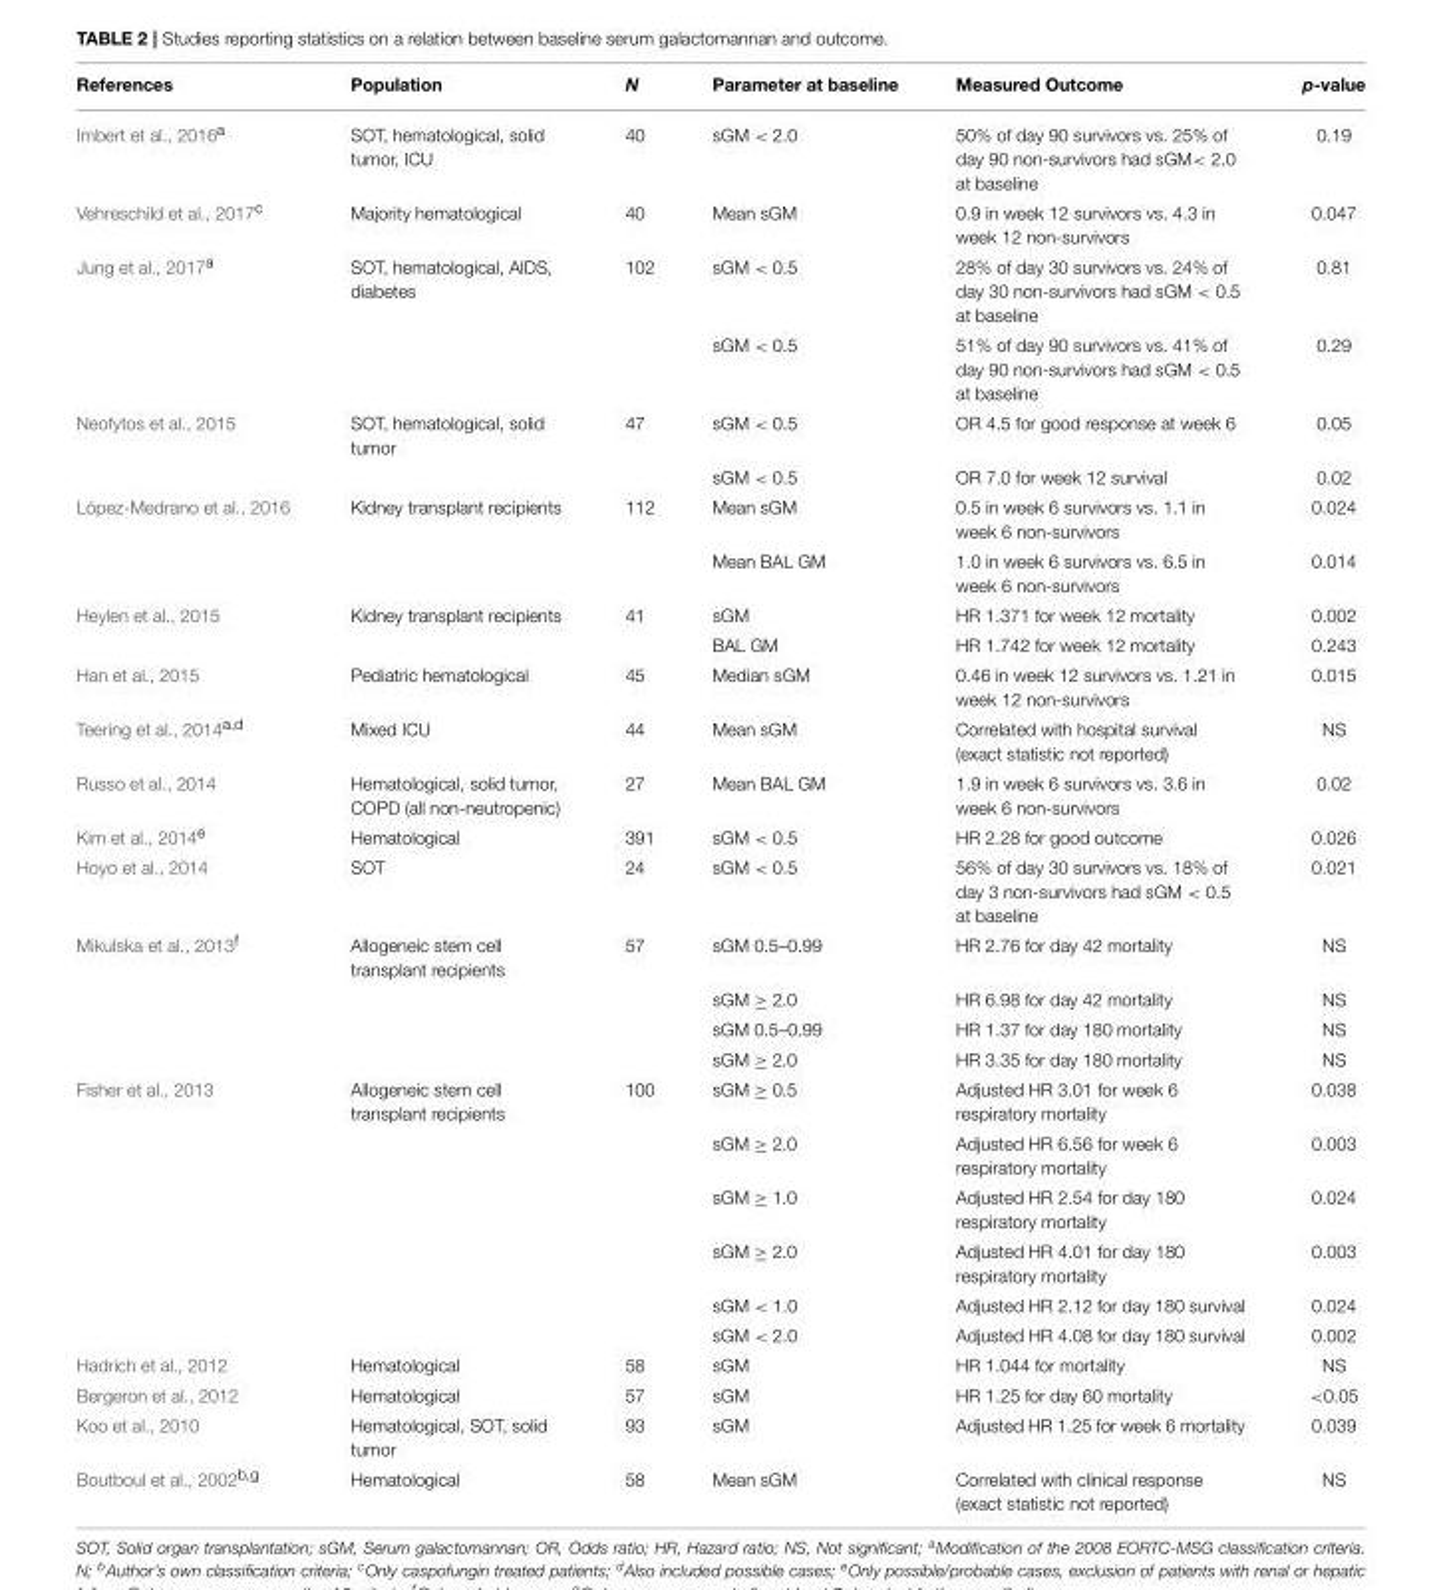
<table><thead><tr><td>References</td><td>Population</td><td>N</td><td>Parameter at baseline</td><td>Measured Outcome</td><td>p-value</td></tr></thead><tbody><tr><td>Imbert et al., 2016<sup>a</sup></td><td>SOT, hematological, solid tumor, ICU</td><td>40</td><td>sGM &lt; 2.0</td><td>50% of day 90 survivors vs. 25% of day 90 non-survivors had sGM&lt; 2.0 at baseline</td><td>0.19</td></tr><tr><td>Vehreschild et al., 2017<sup>c</sup></td><td>Majority hematological</td><td>40</td><td>Mean sGM</td><td>0.9 in week 12 survivors vs. 4.3 in week 12 non-survivors</td><td>0.047</td></tr><tr><td rowspan="2">Jung et al., 2017<sup>a</sup></td><td>SOT, hematological, AIDS, diabetes</td><td>102</td><td>sGM &lt; 0.5</td><td>28% of day 30 survivors vs. 24% of day 30 non-survivors had sGM &lt; 0.5 at baseline</td><td>0.81</td></tr><tr><td></td><td></td><td>sGM &lt; 0.5</td><td>51% of day 90 survivors vs. 41% of day 90 non-survivors had sGM &lt; 0.5 at baseline</td><td>0.29</td></tr><tr><td rowspan="2">Neofytos et al., 2015</td><td>SOT, hematological, solid tumor</td><td>47</td><td>sGM &lt; 0.5</td><td>OR 4.5 for good response at week 6</td><td>0.05</td></tr><tr><td></td><td></td><td>sGM &lt; 0.5</td><td>OR 7.0 for week 12 survival</td><td>0.02</td></tr><tr><td rowspan="2">López-Medrano et al., 2016</td><td>Kidney transplant recipients</td><td>112</td><td>Mean sGM</td><td>0.5 in week 6 survivors vs. 1.1 in week 6 non-survivors</td><td>0.024</td></tr><tr><td></td><td></td><td>Mean BAL GM</td><td>1.0 in week 6 survivors vs. 6.5 in week 6 non-survivors</td><td>0.014</td></tr><tr><td rowspan="2">Heylen et al., 2015</td><td>Kidney transplant recipients</td><td>41</td><td>sGM</td><td>HR 1.371 for week 12 mortality</td><td>0.002</td></tr><tr><td></td><td></td><td>BAL GM</td><td>HR 1.742 for week 12 mortality</td><td>0.243</td></tr><tr><td>Han et al., 2015</td><td>Pediatric hematological</td><td>45</td><td>Median sGM</td><td>0.46 in week 12 survivors vs. 1.21 in week 12 non-survivors</td><td>0.015</td></tr><tr><td>Teering et al., 2014<sup>a,d</sup></td><td>Mixed ICU</td><td>44</td><td>Mean sGM</td><td>Correlated with hospital survival (exact statistic not reported)</td><td>NS</td></tr><tr><td>Russo et al., 2014</td><td>Hematological, solid tumor, COPD (all non-neutropenic)</td><td>27</td><td>Mean BAL GM</td><td>1.9 in week 6 survivors vs. 3.6 in week 6 non-survivors</td><td>0.02</td></tr><tr><td>Kim et al., 2014<sup>e</sup></td><td>Hematological</td><td>391</td><td>sGM &lt; 0.5</td><td>HR 2.28 for good outcome</td><td>0.026</td></tr><tr><td>Hoyo et al., 2014</td><td>SOT</td><td>24</td><td>sGM &lt; 0.5</td><td>56% of day 30 survivors vs. 18% of day 3 non-survivors had sGM &lt; 0.5 at baseline</td><td>0.021</td></tr><tr><td rowspan="4">Mikulska et al., 2013<sup>f</sup></td><td>Allogeneic stem cell transplant recipients</td><td>57</td><td>sGM 0.5–0.99</td><td>HR 2.76 for day 42 mortality</td><td>NS</td></tr><tr><td></td><td></td><td>sGM ≥ 2.0</td><td>HR 6.98 for day 42 mortality</td><td>NS</td></tr><tr><td></td><td></td><td>sGM 0.5–0.99</td><td>HR 1.37 for day 180 mortality</td><td>NS</td></tr><tr><td></td><td></td><td>sGM ≥ 2.0</td><td>HR 3.35 for day 180 mortality</td><td>NS</td></tr><tr><td rowspan="6">Fisher et al., 2013</td><td>Allogeneic stem cell transplant recipients</td><td>100</td><td>sGM ≥ 0.5</td><td>Adjusted HR 3.01 for week 6 respiratory mortality</td><td>0.038</td></tr><tr><td></td><td></td><td>sGM ≥ 2.0</td><td>Adjusted HR 6.56 for week 6 respiratory mortality</td><td>0.003</td></tr><tr><td></td><td></td><td>sGM ≥ 1.0</td><td>Adjusted HR 2.54 for day 180 respiratory mortality</td><td>0.024</td></tr><tr><td></td><td></td><td>sGM ≥ 2.0</td><td>Adjusted HR 4.01 for day 180 respiratory mortality</td><td>0.003</td></tr><tr><td></td><td></td><td>sGM &lt; 1.0</td><td>Adjusted HR 2.12 for day 180 survival</td><td>0.024</td></tr><tr><td></td><td></td><td>sGM &lt; 2.0</td><td>Adjusted HR 4.08 for day 180 survival</td><td>0.002</td></tr><tr><td>Hadrich et al., 2012</td><td>Hematological</td><td>58</td><td>sGM</td><td>HR 1.044 for mortality</td><td>NS</td></tr><tr><td>Bergeron et al., 2012</td><td>Hematological</td><td>57</td><td>sGM</td><td>HR 1.25 for day 60 mortality</td><td>&lt;0.05</td></tr><tr><td>Koo et al., 2010</td><td>Hematological, SOT, solid tumor</td><td>93</td><td>sGM</td><td>Adjusted HR 1.25 for week 6 mortality</td><td>0.039</td></tr><tr><td>Boutboul et al., 2002<sup>b,g</sup></td><td>Hematological</td><td>58</td><td>Mean sGM</td><td>Correlated with clinical response (exact statistic not reported)</td><td>NS</td></tr></tbody></table>